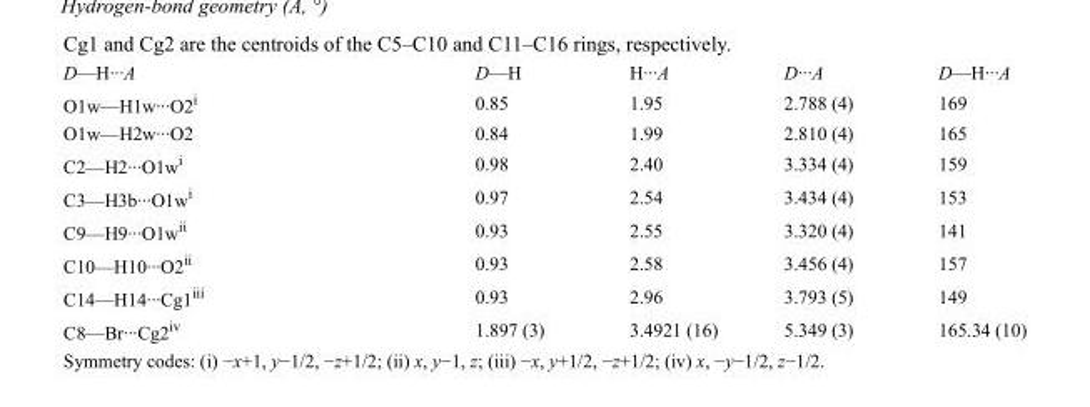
<table><tbody><tr><td>D—H···A</td><td>D—H</td><td>H···A</td><td>D···A</td><td>D—H···A</td></tr><tr><td>O1w—H1w···O2<sup>i</sup></td><td>0.85</td><td>1.95</td><td>2.788 (4)</td><td>169</td></tr><tr><td>O1w—H2w···O2</td><td>0.84</td><td>1.99</td><td>2.810 (4)</td><td>165</td></tr><tr><td>C2—H2···O1w<sup>i</sup></td><td>0.98</td><td>2.40</td><td>3.334 (4)</td><td>159</td></tr><tr><td>C3—H3b···O1w<sup>i</sup></td><td>0.97</td><td>2.54</td><td>3.434 (4)</td><td>153</td></tr><tr><td>C9—H9···O1w<sup>ii</sup></td><td>0.93</td><td>2.55</td><td>3.320 (4)</td><td>141</td></tr><tr><td>C10—H10···O2<sup>ii</sup></td><td>0.93</td><td>2.58</td><td>3.456 (4)</td><td>157</td></tr><tr><td>C14—H14···Cg1<sup>iii</sup></td><td>0.93</td><td>2.96</td><td>3.793 (5)</td><td>149</td></tr><tr><td>C8—Br···Cg2<sup>iv</sup></td><td>1.897 (3)</td><td>3.4921 (16)</td><td>5.349 (3)</td><td>165.34 (10)</td></tr></tbody></table>